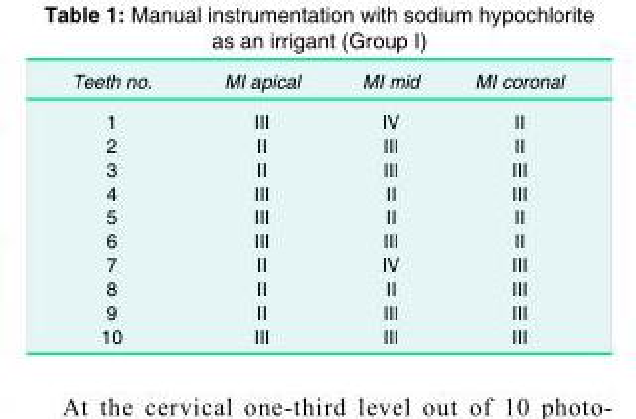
<table><tbody><tr><td>Teeth no.</td><td>MI apical</td><td>MI mid</td><td>MI coronal</td></tr><tr><td>1</td><td>III</td><td>IV</td><td>II</td></tr><tr><td>2</td><td>II</td><td>III</td><td>II</td></tr><tr><td>3</td><td>II</td><td>III</td><td>III</td></tr><tr><td>4</td><td>III</td><td>II</td><td>III</td></tr><tr><td>5</td><td>III</td><td>II</td><td>II</td></tr><tr><td>6</td><td>III</td><td>III</td><td>II</td></tr><tr><td>7</td><td>II</td><td>IV</td><td>III</td></tr><tr><td>8</td><td>II</td><td>II</td><td>III</td></tr><tr><td>9</td><td>II</td><td>III</td><td>III</td></tr><tr><td>10</td><td>III</td><td>III</td><td>III</td></tr></tbody></table>